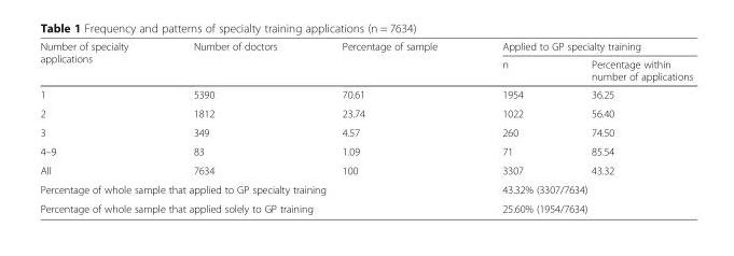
<table><thead><tr><td rowspan="2">Number of specialty applications</td><td rowspan="2">Number of doctors</td><td rowspan="2">Percentage of sample</td><td colspan="2">Applied to GP specialty training</td></tr><tr><td>n</td><td>Percentage within number of applications</td></tr></thead><tbody><tr><td>1</td><td>5390</td><td>70.61</td><td>1954</td><td>36.25</td></tr><tr><td>2</td><td>1812</td><td>23.74</td><td>1022</td><td>56.40</td></tr><tr><td>3</td><td>349</td><td>4.57</td><td>260</td><td>74.50</td></tr><tr><td>4–9</td><td>83</td><td>1.09</td><td>71</td><td>85.54</td></tr><tr><td>All</td><td>7634</td><td>100</td><td>3307</td><td>43.32</td></tr><tr><td colspan="3">Percentage of whole sample that applied to GP specialty training</td><td colspan="2">43.32% (3307/7634)</td></tr><tr><td colspan="3">Percentage of whole sample that applied solely to GP training</td><td colspan="2">25.60% (1954/7634)</td></tr></tbody></table>